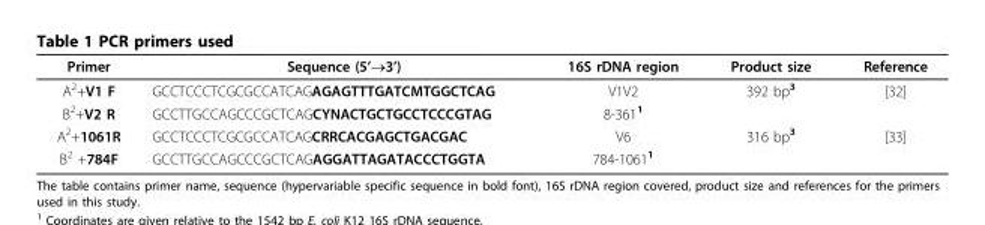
<table><thead><tr><td>Primer</td><td>Sequence (5’→3’)</td><td>16S rDNA region</td><td>Product size</td><td>Reference</td></tr></thead><tbody><tr><td>A<sup>2</sup>+V1 F</td><td>GCCTCCCTCGCGCCATCAGAGAGTTTGATCMTGGCTCAG</td><td>V1V2</td><td>392 bp<sup>3</sup></td><td>[32]</td></tr><tr><td>B<sup>2</sup>+V2 R</td><td>GCCTTGCCAGCCCGCTCAGCYNACTGCTGCCTCCCGTAG</td><td>8-361<sup>1</sup></td><td></td><td></td></tr><tr><td>A<sup>2</sup>+1061R</td><td>GCCTCCCTCGCGCCATCAGCRRCACGAGCTGACGAC</td><td>V6</td><td>316 bp<sup>3</sup></td><td>[33]</td></tr><tr><td>B<sup>2</sup> +784F</td><td>GCCTTGCCAGCCCGCTCAGAGGATTAGATACCCTGGTA</td><td>784-1061<sup>1</sup></td><td></td><td></td></tr></tbody></table>